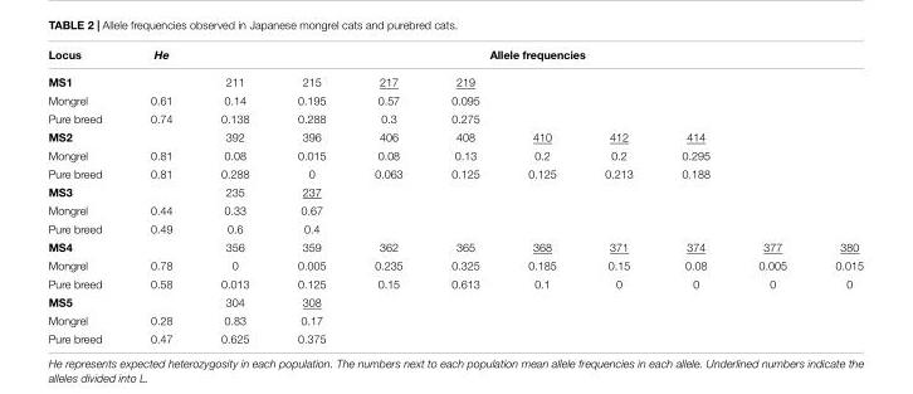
<table><thead><tr><td rowspan="2">Locus MS1</td><td rowspan="2">He</td><td colspan="9">Allele frequencies</td></tr><tr><td>211</td><td>215</td><td>217</td><td>219</td><td></td><td></td><td></td><td></td><td></td></tr></thead><tbody><tr><td>Mongrel</td><td>0.61</td><td>0.14</td><td>0.195</td><td>0.57</td><td>0.095</td><td></td><td></td><td></td><td></td><td></td></tr><tr><td>Pure breed</td><td>0.74</td><td>0.138</td><td>0.288</td><td>0.3</td><td>0.275</td><td></td><td></td><td></td><td></td><td></td></tr><tr><td>MS2</td><td></td><td>392</td><td>396</td><td>406</td><td>408</td><td>410</td><td>412</td><td>414</td><td></td><td></td></tr><tr><td>Mongrel</td><td>0.81</td><td>0.08</td><td>0.015</td><td>0.08</td><td>0.13</td><td>0.2</td><td>0.2</td><td>0.295</td><td></td><td></td></tr><tr><td>Pure breed</td><td>0.81</td><td>0.288</td><td>0</td><td>0.063</td><td>0.125</td><td>0.125</td><td>0.213</td><td>0.188</td><td></td><td></td></tr><tr><td>MS3</td><td></td><td>235</td><td>237</td><td></td><td></td><td></td><td></td><td></td><td></td><td></td></tr><tr><td>Mongrel</td><td>0.44</td><td>0.33</td><td>0.67</td><td></td><td></td><td></td><td></td><td></td><td></td><td></td></tr><tr><td>Pure breed</td><td>0.49</td><td>0.6</td><td>0.4</td><td></td><td></td><td></td><td></td><td></td><td></td><td></td></tr><tr><td>MS4</td><td></td><td>356</td><td>359</td><td>362</td><td>365</td><td>368</td><td>371</td><td>374</td><td>377</td><td>380</td></tr><tr><td>Mongrel</td><td>0.78</td><td>0</td><td>0.005</td><td>0.235</td><td>0.325</td><td>0.185</td><td>0.15</td><td>0.08</td><td>0.005</td><td>0.015</td></tr><tr><td>Pure breed</td><td>0.58</td><td>0.013</td><td>0.125</td><td>0.15</td><td>0.613</td><td>0.1</td><td>0</td><td>0</td><td>0</td><td>0</td></tr><tr><td>MS5</td><td></td><td>304</td><td>308</td><td></td><td></td><td></td><td></td><td></td><td></td><td></td></tr><tr><td>Mongrel</td><td>0.28</td><td>0.83</td><td>0.17</td><td></td><td></td><td></td><td></td><td></td><td></td><td></td></tr><tr><td>Pure breed</td><td>0.47</td><td>0.625</td><td>0.375</td><td></td><td></td><td></td><td></td><td></td><td></td><td></td></tr></tbody></table>